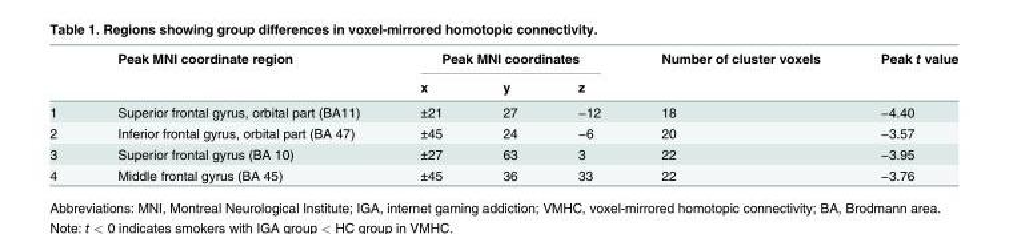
<table><thead><tr><td rowspan="2"></td><td rowspan="2">Peak MNI coordinate region</td><td colspan="3">Peak MNI coordinates</td><td rowspan="2">Number of cluster voxels</td><td rowspan="2">Peak t value</td></tr><tr><td>x</td><td>y</td><td>z</td></tr></thead><tbody><tr><td>1</td><td>Superior frontal gyrus, orbital part (BA11)</td><td>±21</td><td>27</td><td>−12</td><td>18</td><td>−4.40</td></tr><tr><td>2</td><td>Inferior frontal gyrus, orbital part (BA 47)</td><td>±45</td><td>24</td><td>−6</td><td>20</td><td>−3.57</td></tr><tr><td>3</td><td>Superior frontal gyrus (BA 10)</td><td>±27</td><td>63</td><td>3</td><td>22</td><td>−3.95</td></tr><tr><td>4</td><td>Middle frontal gyrus (BA 45)</td><td>±45</td><td>36</td><td>33</td><td>22</td><td>−3.76</td></tr></tbody></table>